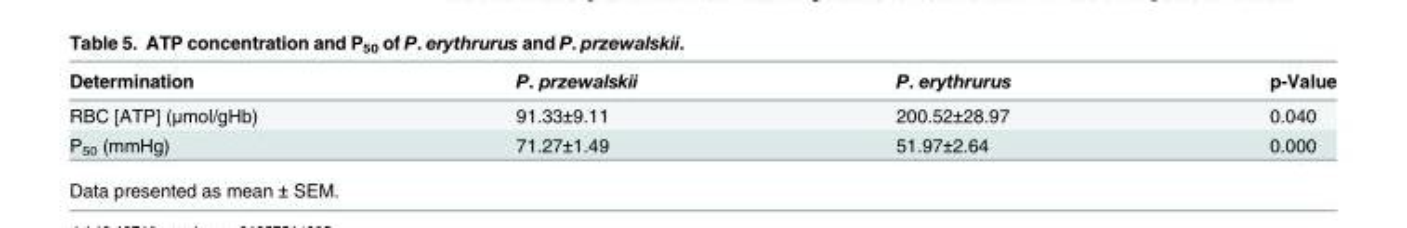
<table><thead><tr><td>Determination</td><td>P. przewalskii</td><td>P. erythrurus</td><td>p-Value</td></tr></thead><tbody><tr><td>RBC [ATP] (μmol/gHb)</td><td>91.33±9.11</td><td>200.52±28.97</td><td>0.040</td></tr><tr><td>P<sub>50</sub> (mmHg)</td><td>71.27±1.49</td><td>51.97±2.64</td><td>0.000</td></tr></tbody></table>